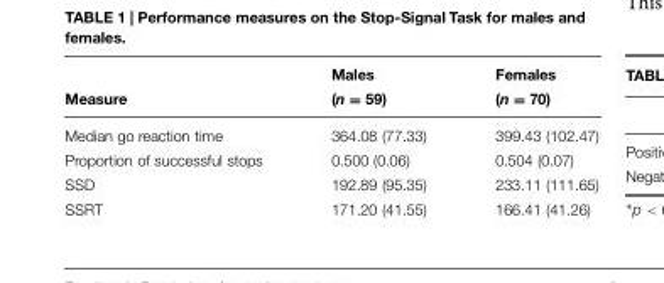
<table><thead><tr><td rowspan="2">Measure</td><td rowspan="2">Males (n = 59)</td><td rowspan="2">Females (n = 70)</td></tr><tr></tr></thead><tbody><tr><td>Median go reaction time</td><td>364.08 (77.33)</td><td>399.43 (102.47)</td></tr><tr><td>Proportion of successful stops</td><td>0.500 (0.06)</td><td>0.504 (0.07)</td></tr><tr><td>SSD</td><td>192.89 (95.35)</td><td>233.11 (111.65)</td></tr><tr><td>SSRT</td><td>171.20 (41.55)</td><td>166.41 (41.26)</td></tr></tbody></table>